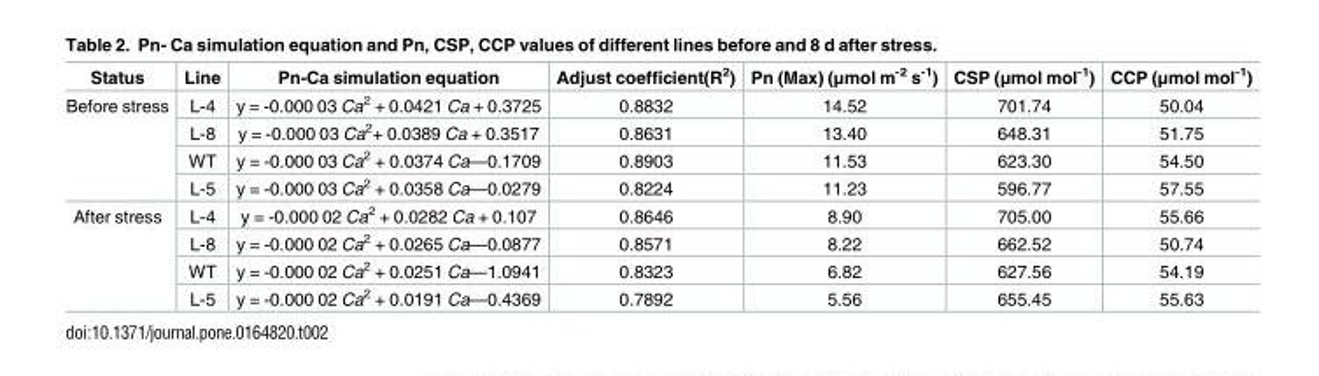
<table><thead><tr><td>Status</td><td>Line</td><td>Pn-Ca simulation equation</td><td>Adjust coefficient(R<sup>2</sup>)</td><td>Pn (Max) (μmol m<sup>-2</sup> s<sup>-1</sup>)</td><td>CSP (μmol mol<sup>-1</sup>)</td><td>CCP (μmol mol<sup>-1</sup>)</td></tr></thead><tbody><tr><td rowspan="4">Before stress</td><td>L-4</td><td>y = -0.000 03 Ca<sup>2</sup> + 0.0421 Ca + 0.3725</td><td>0.8832</td><td>14.52</td><td>701.74</td><td>50.04</td></tr><tr><td>L-8</td><td>y = -0.000 03 Ca<sup>2</sup>+ 0.0389 Ca + 0.3517</td><td>0.8631</td><td>13.40</td><td>648.31</td><td>51.75</td></tr><tr><td>WT</td><td>y = -0.000 03 Ca<sup>2</sup> + 0.0374 Ca—0.1709</td><td>0.8903</td><td>11.53</td><td>623.30</td><td>54.50</td></tr><tr><td>L-5</td><td>y = -0.000 03 Ca<sup>2</sup> + 0.0358 Ca—0.0279</td><td>0.8224</td><td>11.23</td><td>596.77</td><td>57.55</td></tr><tr><td rowspan="4">After stress</td><td>L-4</td><td>y = -0.000 02 Ca<sup>2</sup> + 0.0282 Ca + 0.107</td><td>0.8646</td><td>8.90</td><td>705.00</td><td>55.66</td></tr><tr><td>L-8</td><td>y = -0.000 02 Ca<sup>2</sup> + 0.0265 Ca—0.0877</td><td>0.8571</td><td>8.22</td><td>662.52</td><td>50.74</td></tr><tr><td>WT</td><td>y = -0.000 02 Ca<sup>2</sup> + 0.0251 Ca—1.0941</td><td>0.8323</td><td>6.82</td><td>627.56</td><td>54.19</td></tr><tr><td>L-5</td><td>y = -0.000 02 Ca<sup>2</sup> + 0.0191 Ca—0.4369</td><td>0.7892</td><td>5.56</td><td>655.45</td><td>55.63</td></tr></tbody></table>